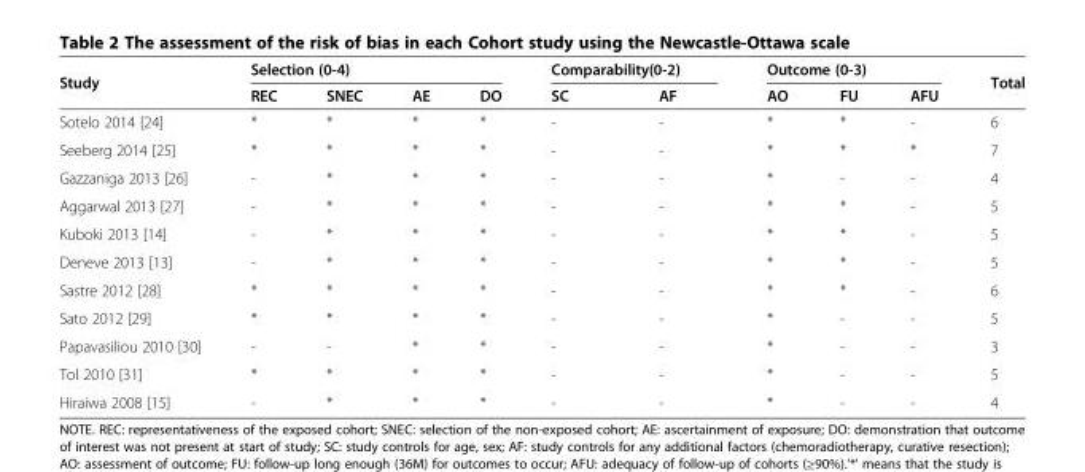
<table><thead><tr><td rowspan="2">Study</td><td colspan="4">Selection (0-4)</td><td colspan="2">Comparability(0-2)</td><td colspan="3">Outcome (0-3)</td><td rowspan="2">Total</td></tr><tr><td>REC</td><td>SNEC</td><td>AE</td><td>DO</td><td>SC</td><td>AF</td><td>AO</td><td>FU</td><td>AFU</td></tr></thead><tbody><tr><td>Sotelo 2014 [24]</td><td>*</td><td>*</td><td>*</td><td>*</td><td>-</td><td>-</td><td>*</td><td>*</td><td>-</td><td>6</td></tr><tr><td>Seeberg 2014 [25]</td><td>*</td><td>*</td><td>*</td><td>*</td><td>-</td><td>-</td><td>*</td><td>*</td><td>*</td><td>7</td></tr><tr><td>Gazzaniga 2013 [26]</td><td>-</td><td>*</td><td>*</td><td>*</td><td>-</td><td>-</td><td>*</td><td>-</td><td>-</td><td>4</td></tr><tr><td>Aggarwal 2013 [27]</td><td>-</td><td>*</td><td>*</td><td>*</td><td>-</td><td>-</td><td>*</td><td>*</td><td>-</td><td>5</td></tr><tr><td>Kuboki 2013 [14]</td><td>-</td><td>*</td><td>*</td><td>*</td><td>-</td><td>-</td><td>*</td><td>*</td><td>-</td><td>5</td></tr><tr><td>Deneve 2013 [13]</td><td>-</td><td>*</td><td>*</td><td>*</td><td>-</td><td>-</td><td>*</td><td>*</td><td>-</td><td>5</td></tr><tr><td>Sastre 2012 [28]</td><td>*</td><td>*</td><td>*</td><td>*</td><td>-</td><td>-</td><td>*</td><td>*</td><td>-</td><td>6</td></tr><tr><td>Sato 2012 [29]</td><td>*</td><td>*</td><td>*</td><td>*</td><td>-</td><td>-</td><td>*</td><td>-</td><td>-</td><td>5</td></tr><tr><td>Papavasiliou 2010 [30]</td><td>-</td><td>-</td><td>*</td><td>*</td><td>-</td><td>-</td><td>*</td><td>-</td><td>-</td><td>3</td></tr><tr><td>Tol 2010 [31]</td><td>*</td><td>*</td><td>*</td><td>*</td><td>-</td><td>-</td><td>*</td><td>-</td><td>-</td><td>5</td></tr><tr><td>Hiraiwa 2008 [15]</td><td>-</td><td>*</td><td>*</td><td>*</td><td>-</td><td>-</td><td>*</td><td>-</td><td>-</td><td>4</td></tr></tbody></table>